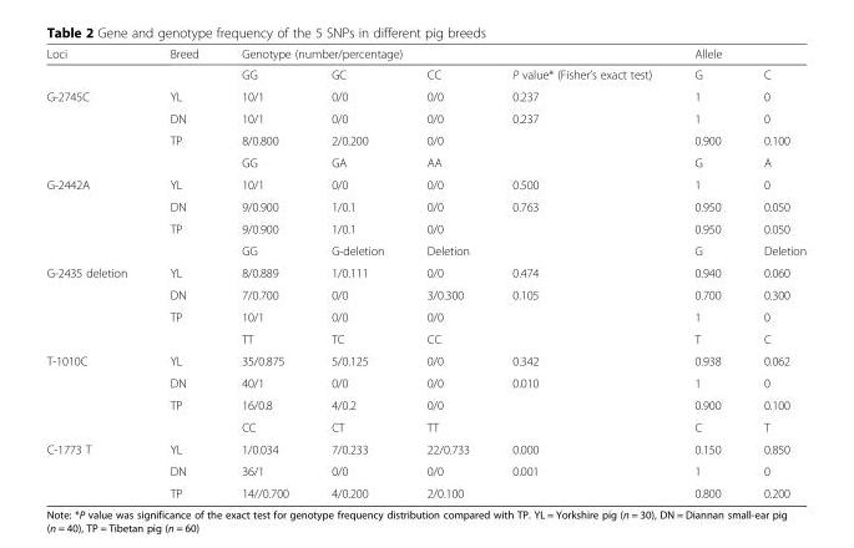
<table><thead><tr><td rowspan="2">Loci</td><td rowspan="2">Breed</td><td colspan="4">Genotype (number/percentage)</td><td colspan="2">Allele</td></tr><tr><td>GG</td><td>GC</td><td>CC</td><td>P value* (Fisher’s exact test)</td><td>G</td><td>C</td></tr></thead><tbody><tr><td rowspan="4">G-2745C</td><td>YL</td><td>10/1</td><td>0/0</td><td>0/0</td><td>0.237</td><td>1</td><td>0</td></tr><tr><td>DN</td><td>10/1</td><td>0/0</td><td>0/0</td><td>0.237</td><td>1</td><td>0</td></tr><tr><td>TP</td><td>8/0.800</td><td>2/0.200</td><td>0/0</td><td></td><td>0.900</td><td>0.100</td></tr><tr><td></td><td>GG</td><td>GA</td><td>AA</td><td></td><td>G</td><td>A</td></tr><tr><td rowspan="4">G-2442A</td><td>YL</td><td>10/1</td><td>0/0</td><td>0/0</td><td>0.500</td><td>1</td><td>0</td></tr><tr><td>DN</td><td>9/0.900</td><td>1/0.1</td><td>0/0</td><td>0.763</td><td>0.950</td><td>0.050</td></tr><tr><td>TP</td><td>9/0.900</td><td>1/0.1</td><td>0/0</td><td></td><td>0.950</td><td>0.050</td></tr><tr><td></td><td>GG</td><td>G-deletion</td><td>Deletion</td><td></td><td>G</td><td>Deletion</td></tr><tr><td rowspan="4">G-2435 deletion</td><td>YL</td><td>8/0.889</td><td>1/0.111</td><td>0/0</td><td>0.474</td><td>0.940</td><td>0.060</td></tr><tr><td>DN</td><td>7/0.700</td><td>0/0</td><td>3/0.300</td><td>0.105</td><td>0.700</td><td>0.300</td></tr><tr><td>TP</td><td>10/1</td><td>0/0</td><td>0/0</td><td></td><td>1</td><td>0</td></tr><tr><td></td><td>TT</td><td>TC</td><td>CC</td><td></td><td>T</td><td>C</td></tr><tr><td rowspan="4">T-1010C</td><td>YL</td><td>35/0.875</td><td>5/0.125</td><td>0/0</td><td>0.342</td><td>0.938</td><td>0.062</td></tr><tr><td>DN</td><td>40/1</td><td>0/0</td><td>0/0</td><td>0.010</td><td>1</td><td>0</td></tr><tr><td>TP</td><td>16/0.8</td><td>4/0.2</td><td>0/0</td><td></td><td>0.900</td><td>0.100</td></tr><tr><td></td><td>CC</td><td>CT</td><td>TT</td><td></td><td>C</td><td>T</td></tr><tr><td rowspan="3">C-1773 T</td><td>YL</td><td>1/0.034</td><td>7/0.233</td><td>22/0.733</td><td>0.000</td><td>0.150</td><td>0.850</td></tr><tr><td>DN</td><td>36/1</td><td>0/0</td><td>0/0</td><td>0.001</td><td>1</td><td>0</td></tr><tr><td>TP</td><td>14//0.700</td><td>4/0.200</td><td>2/0.100</td><td></td><td>0.800</td><td>0.200</td></tr></tbody></table>